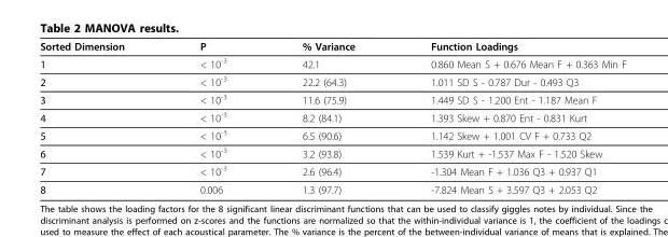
<table><thead><tr><td>Sorted Dimension</td><td>P</td><td>% Variance</td><td>Function Loadings</td></tr></thead><tbody><tr><td>1</td><td>&lt; 10<sup>-3</sup></td><td>42.1</td><td>0.860 Mean S + 0.676 Mean F + 0.363 Min F</td></tr><tr><td>2</td><td>&lt; 10<sup>-3</sup></td><td>22.2 (64.3)</td><td>1.011 SD S - 0.787 Dur - 0.493 Q3</td></tr><tr><td>3</td><td>&lt; 10<sup>-3</sup></td><td>11.6 (75.9)</td><td>1.449 SD S - 1.200 Ent - 1.187 Mean F</td></tr><tr><td>4</td><td>&lt; 10<sup>-3</sup></td><td>8.2 (84.1)</td><td>1.393 Skew + 0.870 Ent - 0.831 Kurt</td></tr><tr><td>5</td><td>&lt; 10<sup>-3</sup></td><td>6.5 (90.6)</td><td>1.142 Skew + 1.001 CV F + 0.733 Q2</td></tr><tr><td>6</td><td>&lt; 10<sup>-3</sup></td><td>3.2 (93.8)</td><td>1.539 Kurt + -1.537 Max F - 1.520 Skew</td></tr><tr><td>7</td><td>&lt; 10<sup>-3</sup></td><td>2.6 (96.4)</td><td>-1.304 Mean F + 1.036 Q3 + 0.937 Q1</td></tr><tr><td>8</td><td>0.006</td><td>1.3 (97.7)</td><td>-7.824 Mean S + 3.597 Q3 + 2.053 Q2</td></tr></tbody></table>